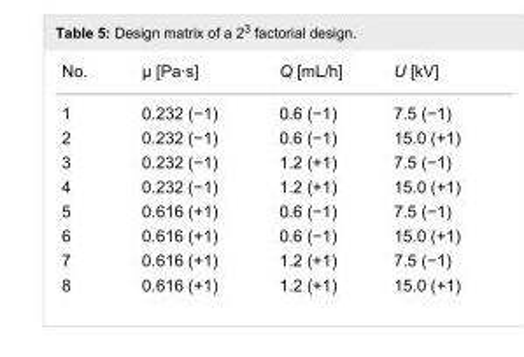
<table><tbody><tr><td>No.</td><td>µ [Pa·s]</td><td>Q [mL/h]</td><td>U [kV]</td></tr><tr><td>1</td><td>0.232 (−1)</td><td>0.6 (−1)</td><td>7.5 (−1)</td></tr><tr><td>2</td><td>0.232 (−1)</td><td>0.6 (−1)</td><td>15.0 (+1)</td></tr><tr><td>3</td><td>0.232 (−1)</td><td>1.2 (+1)</td><td>7.5 (−1)</td></tr><tr><td>4</td><td>0.232 (−1)</td><td>1.2 (+1)</td><td>15.0 (+1)</td></tr><tr><td>5</td><td>0.616 (+1)</td><td>0.6 (−1)</td><td>7.5 (−1)</td></tr><tr><td>6</td><td>0.616 (+1)</td><td>0.6 (−1)</td><td>15.0 (+1)</td></tr><tr><td>7</td><td>0.616 (+1)</td><td>1.2 (+1)</td><td>7.5 (−1)</td></tr><tr><td>8</td><td>0.616 (+1)</td><td>1.2 (+1)</td><td>15.0 (+1)</td></tr></tbody></table>